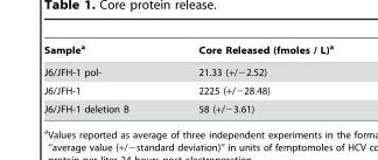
<table><thead><tr><td>Sample<sup>a</sup></td><td>Core Released (fmoles / L)<sup>a</sup></td></tr></thead><tbody><tr><td>J6/JFH-1 pol-</td><td>21.33 (+/−2.52)</td></tr><tr><td>J6/JFH-1</td><td>2225 (+/−28.48)</td></tr><tr><td>J6/JFH-1 deletion B</td><td>58 (+/−3.61)</td></tr></tbody></table>